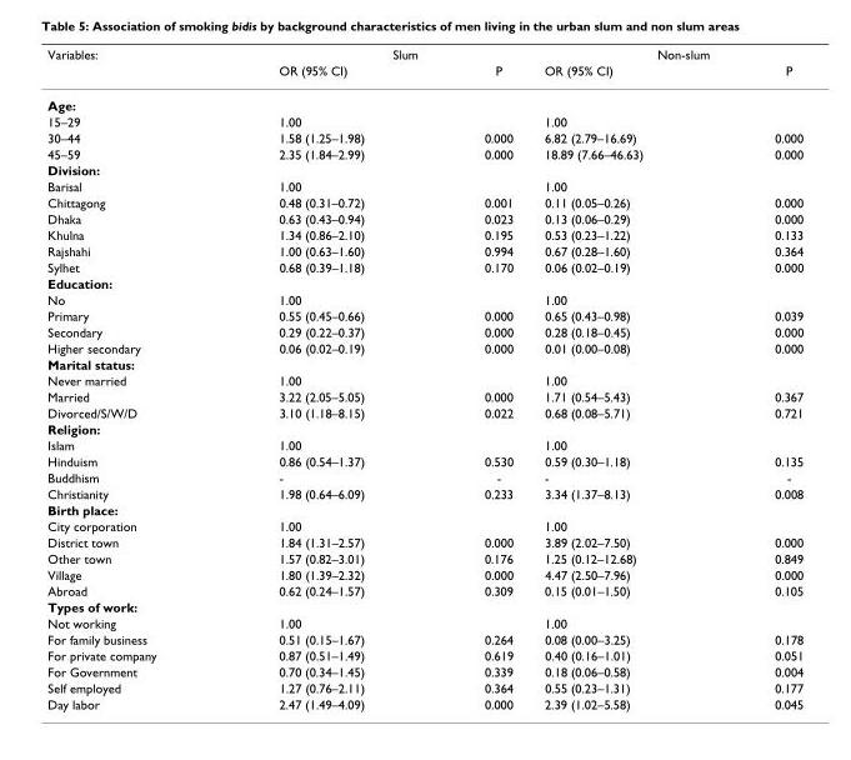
<table><thead><tr><td rowspan="2">Variables:</td><td colspan="2">Slum</td><td colspan="2">Non-slum</td></tr><tr><td>OR (95% CI)</td><td>P</td><td>OR (95% CI)</td><td>P</td></tr></thead><tbody><tr><td colspan="5">Age:</td></tr><tr><td>15–29</td><td>1.00</td><td></td><td>1.00</td><td></td></tr><tr><td>30–44</td><td>1.58 (1.25–1.98)</td><td>0.000</td><td>6.82 (2.79–16.69)</td><td>0.000</td></tr><tr><td>45–59</td><td>2.35 (1.84–2.99)</td><td>0.000</td><td>18.89 (7.66–46.63)</td><td>0.000</td></tr><tr><td colspan="5">Division:</td></tr><tr><td>Barisal</td><td>1.00</td><td></td><td>1.00</td><td></td></tr><tr><td>Chittagong</td><td>0.48 (0.31–0.72)</td><td>0.001</td><td>0.11 (0.05–0.26)</td><td>0.000</td></tr><tr><td>Dhaka</td><td>0.63 (0.43–0.94)</td><td>0.023</td><td>0.13 (0.06–0.29)</td><td>0.000</td></tr><tr><td>Khulna</td><td>1.34 (0.86–2.10)</td><td>0.195</td><td>0.53 (0.23–1.22)</td><td>0.133</td></tr><tr><td>Rajshahi</td><td>1.00 (0.63–1.60)</td><td>0.994</td><td>0.67 (0.28–1.60)</td><td>0.364</td></tr><tr><td>Sylhet</td><td>0.68 (0.39–1.18)</td><td>0.170</td><td>0.06 (0.02–0.19)</td><td>0.000</td></tr><tr><td colspan="5">Education:</td></tr><tr><td>No</td><td>1.00</td><td></td><td>1.00</td><td></td></tr><tr><td>Primary</td><td>0.55 (0.45–0.66)</td><td>0.000</td><td>0.65 (0.43–0.98)</td><td>0.039</td></tr><tr><td>Secondary</td><td>0.29 (0.22–0.37)</td><td>0.000</td><td>0.28 (0.18–0.45)</td><td>0.000</td></tr><tr><td>Higher secondary</td><td>0.06 (0.02–0.19)</td><td>0.000</td><td>0.01 (0.00–0.08)</td><td>0.000</td></tr><tr><td colspan="5">Marital status:</td></tr><tr><td>Never married</td><td>1.00</td><td></td><td>1.00</td><td></td></tr><tr><td>Married</td><td>3.22 (2.05–5.05)</td><td>0.000</td><td>1.71 (0.54–5.43)</td><td>0.367</td></tr><tr><td>Divorced/S/W/D</td><td>3.10 (1.18–8.15)</td><td>0.022</td><td>0.68 (0.08–5.71)</td><td>0.721</td></tr><tr><td colspan="5">Religion:</td></tr><tr><td>Islam</td><td>1.00</td><td></td><td>1.00</td><td></td></tr><tr><td>Hinduism</td><td>0.86 (0.54–1.37)</td><td>0.530</td><td>0.59 (0.30–1.18)</td><td>0.135</td></tr><tr><td>Buddhism</td><td>-</td><td>-</td><td>-</td><td>-</td></tr><tr><td>Christianity</td><td>1.98 (0.64–6.09)</td><td>0.233</td><td>3.34 (1.37–8.13)</td><td>0.008</td></tr><tr><td colspan="5">Birth place:</td></tr><tr><td>City corporation</td><td>1.00</td><td></td><td>1.00</td><td></td></tr><tr><td>District town</td><td>1.84 (1.31–2.57)</td><td>0.000</td><td>3.89 (2.02–7.50)</td><td>0.000</td></tr><tr><td>Other town</td><td>1.57 (0.82–3.01)</td><td>0.176</td><td>1.25 (0.12–12.68)</td><td>0.849</td></tr><tr><td>Village</td><td>1.80 (1.39–2.32)</td><td>0.000</td><td>4.47 (2.50–7.96)</td><td>0.000</td></tr><tr><td>Abroad</td><td>0.62 (0.24–1.57)</td><td>0.309</td><td>0.15 (0.01–1.50)</td><td>0.105</td></tr><tr><td colspan="5">Types of work:</td></tr><tr><td>Not working</td><td>1.00</td><td></td><td>1.00</td><td></td></tr><tr><td>For family business</td><td>0.51 (0.15–1.67)</td><td>0.264</td><td>0.08 (0.00–3.25)</td><td>0.178</td></tr><tr><td>For private company</td><td>0.87 (0.51–1.49)</td><td>0.619</td><td>0.40 (0.16–1.01)</td><td>0.051</td></tr><tr><td>For Government</td><td>0.70 (0.34–1.45)</td><td>0.339</td><td>0.18 (0.06–0.58)</td><td>0.004</td></tr><tr><td>Self employed</td><td>1.27 (0.76–2.11)</td><td>0.364</td><td>0.55 (0.23–1.31)</td><td>0.177</td></tr><tr><td>Day labor</td><td>2.47 (1.49–4.09)</td><td>0.000</td><td>2.39 (1.02–5.58)</td><td>0.045</td></tr></tbody></table>